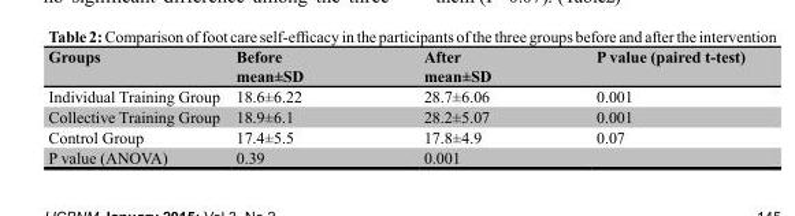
<table><thead><tr><td>Groups</td><td>Before mean±SD</td><td>After mean±SD</td><td>P value (paired t-test)</td></tr></thead><tbody><tr><td>Individual Training Group</td><td>18.6±6.22</td><td>28.7±6.06</td><td>0.001</td></tr><tr><td>Collective Training Group</td><td>18.9±6.1</td><td>28.2±5.07</td><td>0.001</td></tr><tr><td>Control Group</td><td>17.4±5.5</td><td>17.8±4.9</td><td>0.07</td></tr><tr><td>P value (ANOVA)</td><td>0.39</td><td>0.001</td><td></td></tr></tbody></table>